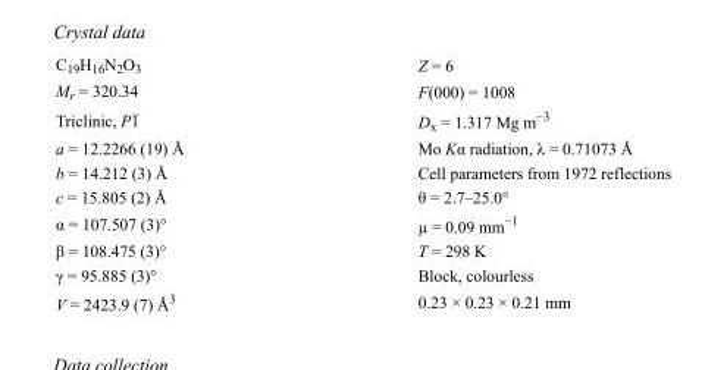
<table><tbody><tr><td>C<sub>19</sub>H<sub>16</sub>N<sub>2</sub>O<sub>3</sub></td><td>Z = 6</td></tr><tr><td>M<sub>r</sub> = 320.34</td><td>F(000) = 1008</td></tr><tr><td>Triclinic, P1</td><td>D<sub>x</sub> = 1.317 Mg m<sup>−3</sup></td></tr><tr><td>a = 12.2266 (19) Å</td><td>Mo Kα radiation, λ = 0.71073 Å</td></tr><tr><td>b = 14.212 (3) Å</td><td>Cell parameters from 1972 reflections</td></tr><tr><td>c = 15.805 (2) Å</td><td>θ = 2.7–25.0°</td></tr><tr><td>α = 107.507 (3)°</td><td>µ = 0.09 mm<sup>−1</sup></td></tr><tr><td>β = 108.475 (3)°</td><td>T = 298 K</td></tr><tr><td>γ = 95.885 (3)°</td><td>Block, colourless</td></tr><tr><td>V = 2423.9 (7) Å<sup>3</sup></td><td>0.23 × 0.23 × 0.21 mm</td></tr></tbody></table>